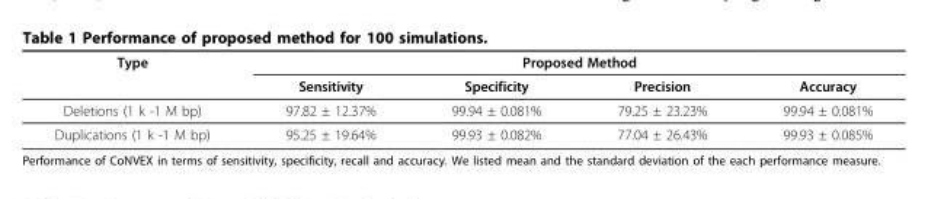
<table><thead><tr><td rowspan="2">Type</td><td colspan="4">Proposed Method</td></tr><tr><td>Sensitivity</td><td>Specificity</td><td>Precision</td><td>Accuracy</td></tr></thead><tbody><tr><td>Deletions (1 k -1 M bp)</td><td>97.82 ± 12.37%</td><td>99.94 ± 0.081%</td><td>79.25 ± 23.23%</td><td>99.94 ± 0.081%</td></tr><tr><td>Duplications (1 k -1 M bp)</td><td>95.25 ± 19.64%</td><td>99.93 ± 0.082%</td><td>77.04 ± 26.43%</td><td>99.93 ± 0.085%</td></tr></tbody></table>